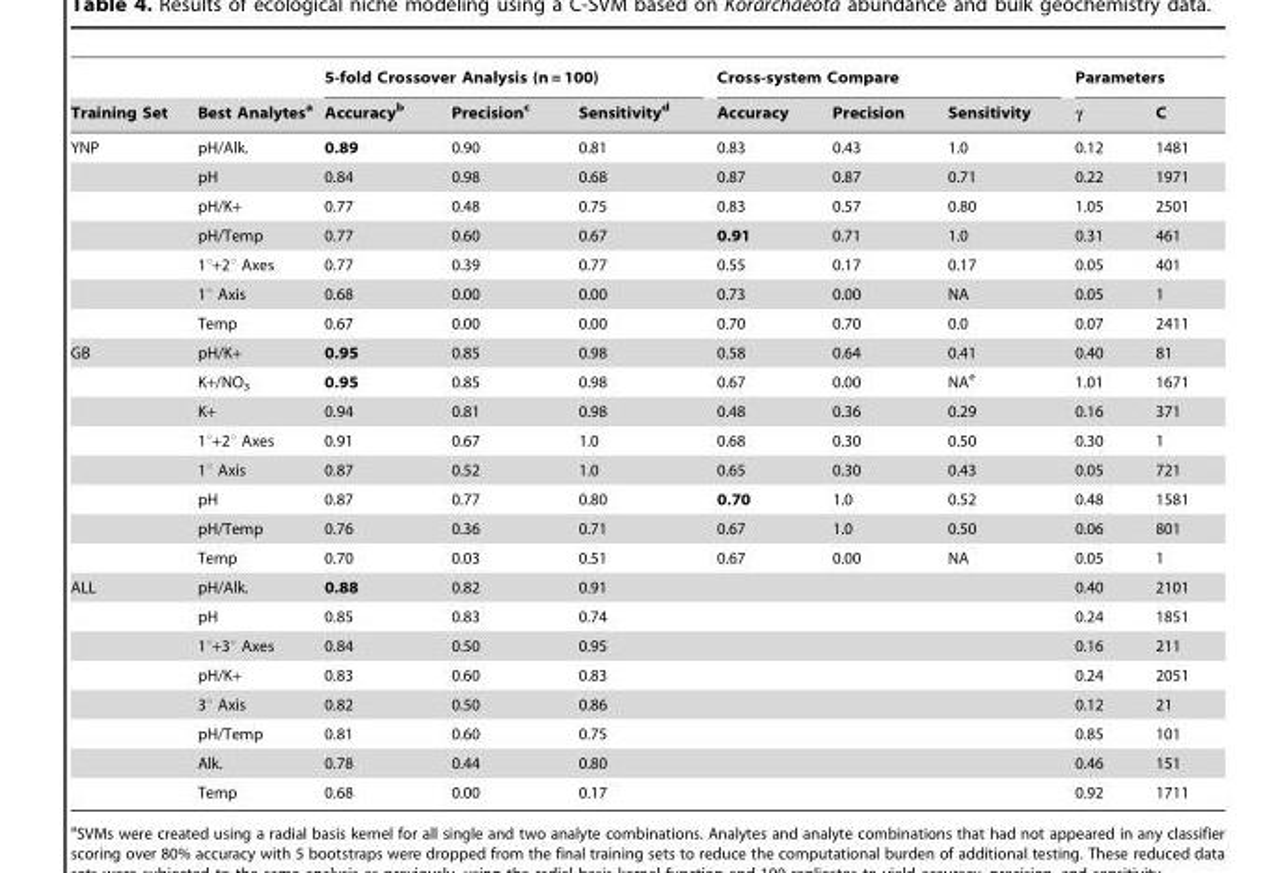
<table><thead><tr><td rowspan="2">Training Set</td><td rowspan="2">Best Analytes<sup>a</sup></td><td colspan="3">5-fold Crossover Analysis (n = 100)</td><td colspan="3">Cross-system Compare</td><td colspan="2">Parameters</td></tr><tr><td>Accuracy<sup>b</sup></td><td>Precision<sup>c</sup></td><td>Sensitivity<sup>d</sup></td><td>Accuracy</td><td>Precision</td><td>Sensitivity</td><td>γ</td><td>C</td></tr></thead><tbody><tr><td rowspan="7">YNP</td><td>pH/Alk.</td><td>0.89</td><td>0.90</td><td>0.81</td><td>0.83</td><td>0.43</td><td>1.0</td><td>0.12</td><td>1481</td></tr><tr><td>pH</td><td>0.84</td><td>0.98</td><td>0.68</td><td>0.87</td><td>0.87</td><td>0.71</td><td>0.22</td><td>1971</td></tr><tr><td>pH/K+</td><td>0.77</td><td>0.48</td><td>0.75</td><td>0.83</td><td>0.57</td><td>0.80</td><td>1.05</td><td>2501</td></tr><tr><td>pH/Temp</td><td>0.77</td><td>0.60</td><td>0.67</td><td>0.91</td><td>0.71</td><td>1.0</td><td>0.31</td><td>461</td></tr><tr><td>1°+2° Axes</td><td>0.77</td><td>0.39</td><td>0.77</td><td>0.55</td><td>0.17</td><td>0.17</td><td>0.05</td><td>401</td></tr><tr><td>1° Axis</td><td>0.68</td><td>0.00</td><td>0.00</td><td>0.73</td><td>0.00</td><td>NA</td><td>0.05</td><td>1</td></tr><tr><td>Temp</td><td>0.67</td><td>0.00</td><td>0.00</td><td>0.70</td><td>0.70</td><td>0.0</td><td>0.07</td><td>2411</td></tr><tr><td rowspan="8">GB</td><td>pH/K+</td><td>0.95</td><td>0.85</td><td>0.98</td><td>0.58</td><td>0.64</td><td>0.41</td><td>0.40</td><td>81</td></tr><tr><td>K+/NO<sub>3</sub></td><td>0.95</td><td>0.85</td><td>0.98</td><td>0.67</td><td>0.00</td><td>NA<sup>e</sup></td><td>1.01</td><td>1671</td></tr><tr><td>K+</td><td>0.94</td><td>0.81</td><td>0.98</td><td>0.48</td><td>0.36</td><td>0.29</td><td>0.16</td><td>371</td></tr><tr><td>1°+2° Axes</td><td>0.91</td><td>0.67</td><td>1.0</td><td>0.68</td><td>0.30</td><td>0.50</td><td>0.30</td><td>1</td></tr><tr><td>1° Axis</td><td>0.87</td><td>0.52</td><td>1.0</td><td>0.65</td><td>0.30</td><td>0.43</td><td>0.05</td><td>721</td></tr><tr><td>pH</td><td>0.87</td><td>0.77</td><td>0.80</td><td>0.70</td><td>1.0</td><td>0.52</td><td>0.48</td><td>1581</td></tr><tr><td>pH/Temp</td><td>0.76</td><td>0.36</td><td>0.71</td><td>0.67</td><td>1.0</td><td>0.50</td><td>0.06</td><td>801</td></tr><tr><td>Temp</td><td>0.70</td><td>0.03</td><td>0.51</td><td>0.67</td><td>0.00</td><td>NA</td><td>0.05</td><td>1</td></tr><tr><td rowspan="8">ALL</td><td>pH/Alk.</td><td>0.88</td><td>0.82</td><td>0.91</td><td></td><td></td><td></td><td>0.40</td><td>2101</td></tr><tr><td>pH</td><td>0.85</td><td>0.83</td><td>0.74</td><td></td><td></td><td></td><td>0.24</td><td>1851</td></tr><tr><td>1°+3° Axes</td><td>0.84</td><td>0.50</td><td>0.95</td><td></td><td></td><td></td><td>0.16</td><td>211</td></tr><tr><td>pH/K+</td><td>0.83</td><td>0.60</td><td>0.83</td><td></td><td></td><td></td><td>0.24</td><td>2051</td></tr><tr><td>3° Axis</td><td>0.82</td><td>0.50</td><td>0.86</td><td></td><td></td><td></td><td>0.12</td><td>21</td></tr><tr><td>pH/Temp</td><td>0.81</td><td>0.60</td><td>0.75</td><td></td><td></td><td></td><td>0.85</td><td>101</td></tr><tr><td>Alk.</td><td>0.78</td><td>0.44</td><td>0.80</td><td></td><td></td><td></td><td>0.46</td><td>151</td></tr><tr><td>Temp</td><td>0.68</td><td>0.00</td><td>0.17</td><td></td><td></td><td></td><td>0.92</td><td>1711</td></tr></tbody></table>